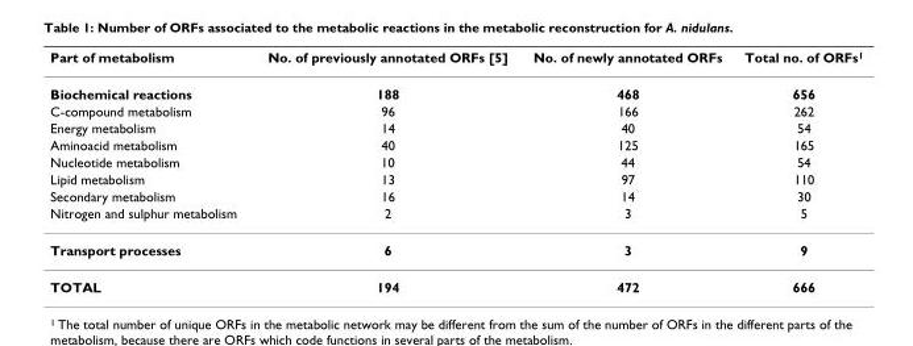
<table><thead><tr><td>Part of metabolism</td><td>No. of previously annotated ORFs [5]</td><td>No. of newly annotated ORFs</td><td>Total no. of ORFs<sup>1</sup></td></tr></thead><tbody><tr><td>Biochemical reactions</td><td>188</td><td>468</td><td>656</td></tr><tr><td>C-compound metabolism</td><td>96</td><td>166</td><td>262</td></tr><tr><td>Energy metabolism</td><td>14</td><td>40</td><td>54</td></tr><tr><td>Aminoacid metabolism</td><td>40</td><td>125</td><td>165</td></tr><tr><td>Nucleotide metabolism</td><td>10</td><td>44</td><td>54</td></tr><tr><td>Lipid metabolism</td><td>13</td><td>97</td><td>110</td></tr><tr><td>Secondary metabolism</td><td>16</td><td>14</td><td>30</td></tr><tr><td>Nitrogen and sulphur metabolism</td><td>2</td><td>3</td><td>5</td></tr><tr><td>Transport processes</td><td>6</td><td>3</td><td>9</td></tr><tr><td>TOTAL</td><td>194</td><td>472</td><td>666</td></tr></tbody></table>